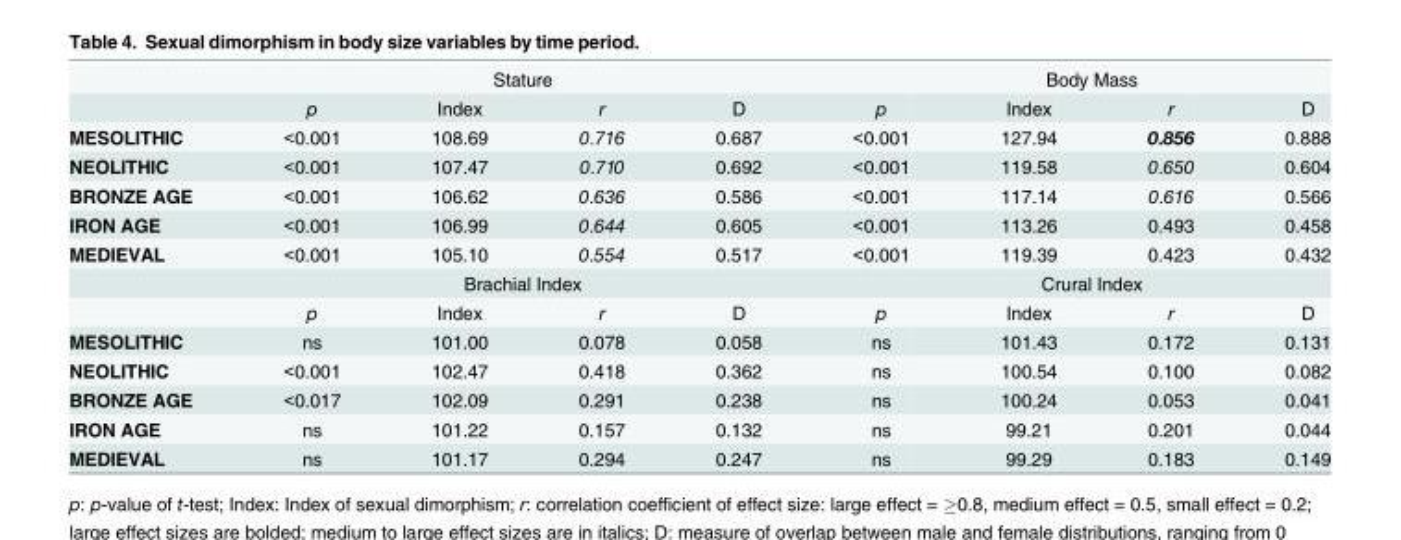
<table><thead><tr><td rowspan="2"></td><td colspan="4">Stature</td><td colspan="4">Body Mass</td></tr><tr><td>p</td><td>Index</td><td>r</td><td>D</td><td>p</td><td>Index</td><td>r</td><td>D</td></tr></thead><tbody><tr><td>MESOLITHIC</td><td>&lt;0.001</td><td>108.69</td><td>0.716</td><td>0.687</td><td>&lt;0.001</td><td>127.94</td><td>0.856</td><td>0.888</td></tr><tr><td>NEOLITHIC</td><td>&lt;0.001</td><td>107.47</td><td>0.710</td><td>0.692</td><td>&lt;0.001</td><td>119.58</td><td>0.650</td><td>0.604</td></tr><tr><td>BRONZE AGE</td><td>&lt;0.001</td><td>106.62</td><td>0.636</td><td>0.586</td><td>&lt;0.001</td><td>117.14</td><td>0.616</td><td>0.566</td></tr><tr><td>IRON AGE</td><td>&lt;0.001</td><td>106.99</td><td>0.644</td><td>0.605</td><td>&lt;0.001</td><td>113.26</td><td>0.493</td><td>0.458</td></tr><tr><td rowspan="3">MEDIEVAL</td><td>&lt;0.001</td><td>105.10</td><td>0.554</td><td>0.517</td><td>&lt;0.001</td><td>119.39</td><td>0.423</td><td>0.432</td></tr><tr><td colspan="4">Brachial Index</td><td colspan="4">Crural Index</td></tr><tr><td>p</td><td>Index</td><td>r</td><td>D</td><td>p</td><td>Index</td><td>r</td><td>D</td></tr><tr><td>MESOLITHIC</td><td>ns</td><td>101.00</td><td>0.078</td><td>0.058</td><td>ns</td><td>101.43</td><td>0.172</td><td>0.131</td></tr><tr><td>NEOLITHIC</td><td>&lt;0.001</td><td>102.47</td><td>0.418</td><td>0.362</td><td>ns</td><td>100.54</td><td>0.100</td><td>0.082</td></tr><tr><td>BRONZE AGE</td><td>&lt;0.017</td><td>102.09</td><td>0.291</td><td>0.238</td><td>ns</td><td>100.24</td><td>0.053</td><td>0.041</td></tr><tr><td>IRON AGE</td><td>ns</td><td>101.22</td><td>0.157</td><td>0.132</td><td>ns</td><td>99.21</td><td>0.201</td><td>0.044</td></tr><tr><td>MEDIEVAL</td><td>ns</td><td>101.17</td><td>0.294</td><td>0.247</td><td>ns</td><td>99.29</td><td>0.183</td><td>0.149</td></tr></tbody></table>